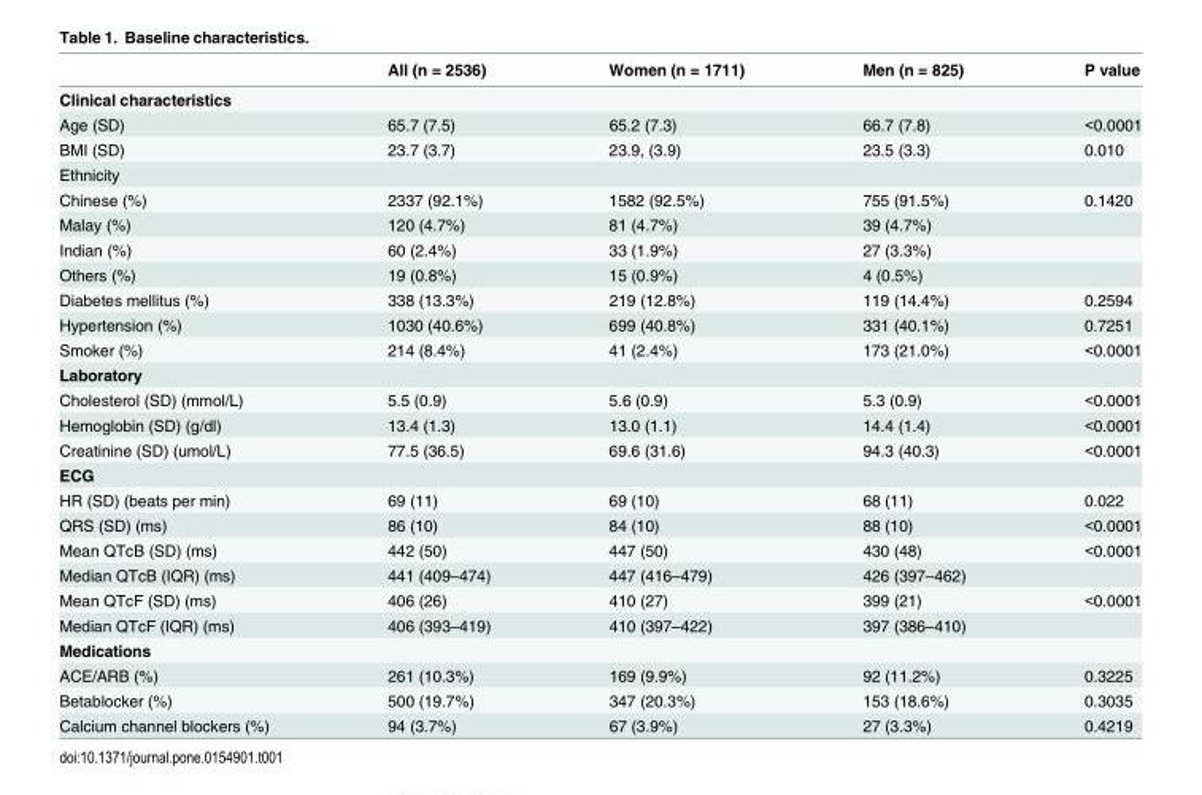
<table><thead><tr><td></td><td>All (n = 2536)</td><td>Women (n = 1711)</td><td>Men (n = 825)</td><td>P value</td></tr></thead><tbody><tr><td colspan="5">Clinical characteristics</td></tr><tr><td>Age (SD)</td><td>65.7 (7.5)</td><td>65.2 (7.3)</td><td>66.7 (7.8)</td><td>&lt;0.0001</td></tr><tr><td>BMI (SD)</td><td>23.7 (3.7)</td><td>23.9, (3.9)</td><td>23.5 (3.3)</td><td>0.010</td></tr><tr><td colspan="5">Ethnicity</td></tr><tr><td>Chinese (%)</td><td>2337 (92.1%)</td><td>1582 (92.5%)</td><td>755 (91.5%)</td><td>0.1420</td></tr><tr><td>Malay (%)</td><td>120 (4.7%)</td><td>81 (4.7%)</td><td>39 (4.7%)</td><td></td></tr><tr><td>Indian (%)</td><td>60 (2.4%)</td><td>33 (1.9%)</td><td>27 (3.3%)</td><td></td></tr><tr><td>Others (%)</td><td>19 (0.8%)</td><td>15 (0.9%)</td><td>4 (0.5%)</td><td></td></tr><tr><td>Diabetes mellitus (%)</td><td>338 (13.3%)</td><td>219 (12.8%)</td><td>119 (14.4%)</td><td>0.2594</td></tr><tr><td>Hypertension (%)</td><td>1030 (40.6%)</td><td>699 (40.8%)</td><td>331 (40.1%)</td><td>0.7251</td></tr><tr><td>Smoker (%)</td><td>214 (8.4%)</td><td>41 (2.4%)</td><td>173 (21.0%)</td><td>&lt;0.0001</td></tr><tr><td colspan="5">Laboratory</td></tr><tr><td>Cholesterol (SD) (mmol/L)</td><td>5.5 (0.9)</td><td>5.6 (0.9)</td><td>5.3 (0.9)</td><td>&lt;0.0001</td></tr><tr><td>Hemoglobin (SD) (g/dl)</td><td>13.4 (1.3)</td><td>13.0 (1.1)</td><td>14.4 (1.4)</td><td>&lt;0.0001</td></tr><tr><td>Creatinine (SD) (umol/L)</td><td>77.5 (36.5)</td><td>69.6 (31.6)</td><td>94.3 (40.3)</td><td>&lt;0.0001</td></tr><tr><td colspan="5">ECG</td></tr><tr><td>HR (SD) (beats per min)</td><td>69 (11)</td><td>69 (10)</td><td>68 (11)</td><td>0.022</td></tr><tr><td>QRS (SD) (ms)</td><td>86 (10)</td><td>84 (10)</td><td>88 (10)</td><td>&lt;0.0001</td></tr><tr><td>Mean QTcB (SD) (ms)</td><td>442 (50)</td><td>447 (50)</td><td>430 (48)</td><td>&lt;0.0001</td></tr><tr><td>Median QTcB (IQR) (ms)</td><td>441 (409–474)</td><td>447 (416–479)</td><td>426 (397–462)</td><td></td></tr><tr><td>Mean QTcF (SD) (ms)</td><td>406 (26)</td><td>410 (27)</td><td>399 (21)</td><td>&lt;0.0001</td></tr><tr><td>Median QTcF (IQR) (ms)</td><td>406 (393–419)</td><td>410 (397–422)</td><td>397 (386–410)</td><td></td></tr><tr><td colspan="5">Medications</td></tr><tr><td>ACE/ARB (%)</td><td>261 (10.3%)</td><td>169 (9.9%)</td><td>92 (11.2%)</td><td>0.3225</td></tr><tr><td>Betablocker (%)</td><td>500 (19.7%)</td><td>347 (20.3%)</td><td>153 (18.6%)</td><td>0.3035</td></tr><tr><td>Calcium channel blockers (%)</td><td>94 (3.7%)</td><td>67 (3.9%)</td><td>27 (3.3%)</td><td>0.4219</td></tr></tbody></table>